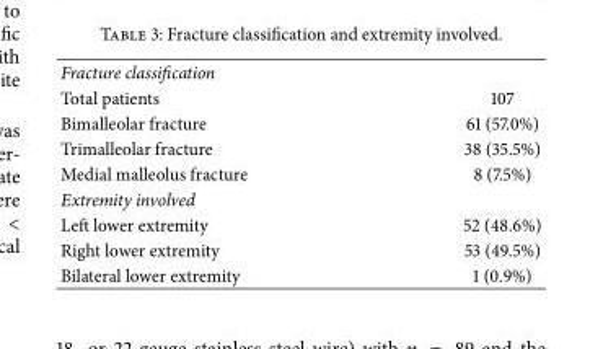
<table><tbody><tr><td colspan="2">Fracture classification</td></tr><tr><td>Total patients</td><td>107</td></tr><tr><td>Bimalleolar fracture</td><td>61 (57.0%)</td></tr><tr><td>Trimalleolar fracture</td><td>38 (35.5%)</td></tr><tr><td>Medial malleolus fracture</td><td>8 (7.5%)</td></tr><tr><td colspan="2">Extremity involved</td></tr><tr><td>Left lower extremity</td><td>52 (48.6%)</td></tr><tr><td>Right lower extremity</td><td>53 (49.5%)</td></tr><tr><td>Bilateral lower extremity</td><td>1 (0.9%)</td></tr></tbody></table>